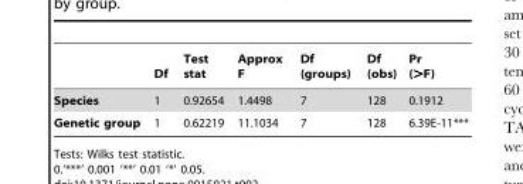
<table><thead><tr><td></td><td>Df</td><td>Test stat</td><td>Approx F</td><td>Df (groups)</td><td>Df (obs)</td><td>Pr (&gt;F)</td></tr></thead><tbody><tr><td>Species</td><td>1</td><td>0.92654</td><td>1.4498</td><td>7</td><td>128</td><td>0.1912</td></tr><tr><td>Genetic group</td><td>1</td><td>0.62219</td><td>11.1034</td><td>7</td><td>128</td><td>6.39E-11***</td></tr></tbody></table>